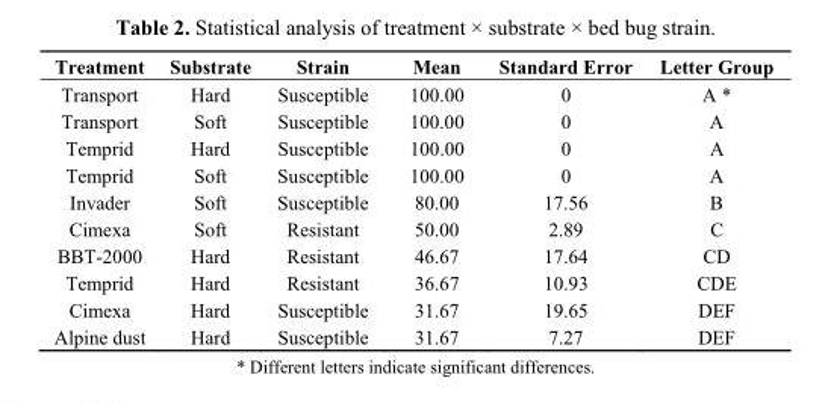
<table><thead><tr><td>Treatment</td><td>Substrate</td><td>Strain</td><td>Mean</td><td>Standard Error</td><td>Letter Group</td></tr></thead><tbody><tr><td>Transport</td><td>Hard</td><td>Susceptible</td><td>100.00</td><td>0</td><td>A *</td></tr><tr><td>Transport</td><td>Soft</td><td>Susceptible</td><td>100.00</td><td>0</td><td>A</td></tr><tr><td>Temprid</td><td>Hard</td><td>Susceptible</td><td>100.00</td><td>0</td><td>A</td></tr><tr><td>Temprid</td><td>Soft</td><td>Susceptible</td><td>100.00</td><td>0</td><td>A</td></tr><tr><td>Invader</td><td>Soft</td><td>Susceptible</td><td>80.00</td><td>17.56</td><td>B</td></tr><tr><td>Cimexa</td><td>Soft</td><td>Resistant</td><td>50.00</td><td>2.89</td><td>C</td></tr><tr><td>BBT-2000</td><td>Hard</td><td>Resistant</td><td>46.67</td><td>17.64</td><td>CD</td></tr><tr><td>Temprid</td><td>Hard</td><td>Resistant</td><td>36.67</td><td>10.93</td><td>CDE</td></tr><tr><td>Cimexa</td><td>Hard</td><td>Susceptible</td><td>31.67</td><td>19.65</td><td>DEF</td></tr><tr><td>Alpine dust</td><td>Hard</td><td>Susceptible</td><td>31.67</td><td>7.27</td><td>DEF</td></tr></tbody></table>